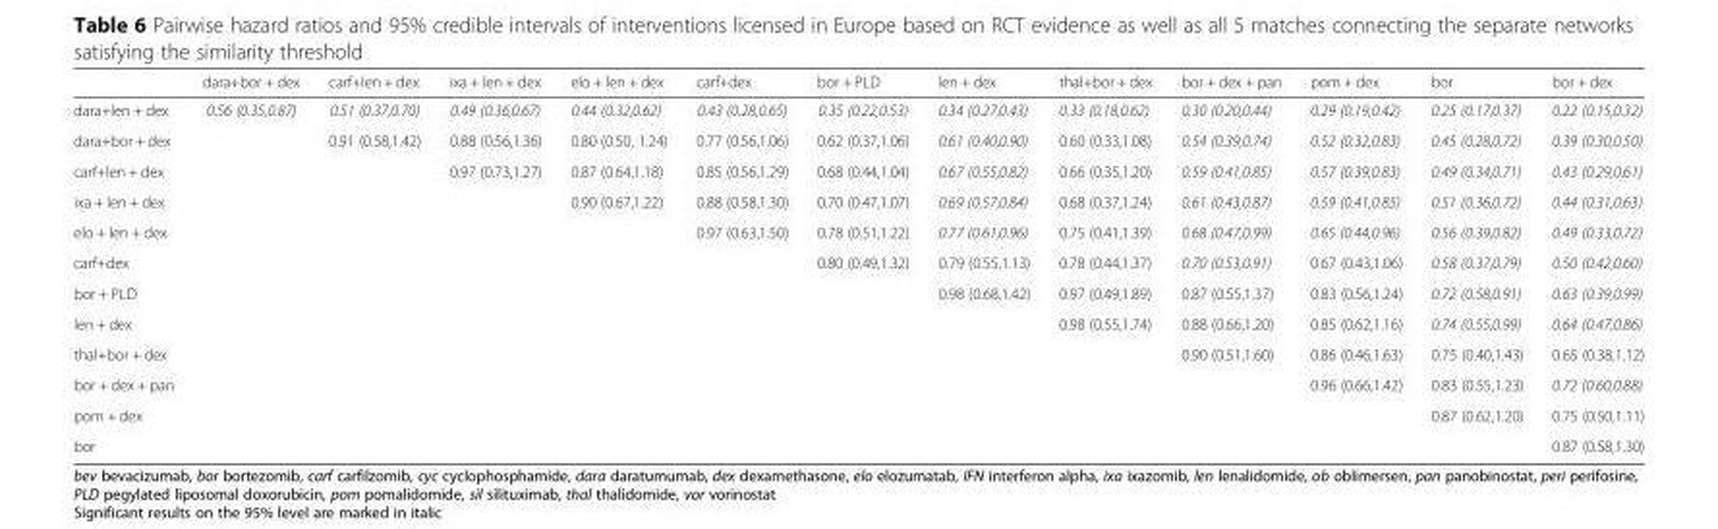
<table><thead><tr><td></td><td>dara+bor + dex</td><td>carf+len + dex</td><td>ixa + len + dex</td><td>elo + len + dex</td><td>carf+dex</td><td>bor + PLD</td><td>len + dex</td><td>thal+bor + dex</td><td>bor + dex + pan</td><td>pom + dex</td><td>bor</td><td>bor + dex</td></tr></thead><tbody><tr><td>dara+len + dex</td><td>0.56 (0.35,0.87)</td><td>0.51 (0.37,0.70)</td><td>0.49 (0.36,0.67)</td><td>0.44 (0.32,0.62)</td><td>0.43 (0.28,0.65)</td><td>0.35 (0.22,0.53)</td><td>0.34 (0.27,0.43)</td><td>0.33 (0.18,0.62)</td><td>0.30 (0.20,0.44)</td><td>0.29 (0.19,0.42)</td><td>0.25 (0.17,0.37)</td><td>0.22 (0.15,0.32)</td></tr><tr><td>dara+bor + dex</td><td></td><td>0.91 (0.58,1.42)</td><td>0.88 (0.56,1.36)</td><td>0.80 (0.50, 1.24)</td><td>0.77 (0.56,1.06)</td><td>0.62 (0.37,1.06)</td><td>0.61 (0.40,0.90)</td><td>0.60 (0.33,1.08)</td><td>0.54 (0.39,0.74)</td><td>0.52 (0.32,0.83)</td><td>0.45 (0.28,0.72)</td><td>0.39 (0.30,0.50)</td></tr><tr><td>carf+len + dex</td><td></td><td></td><td>0.97 (0.73,1.27)</td><td>0.87 (0.64,1.18)</td><td>0.85 (0.56,1.29)</td><td>0.68 (0.44,1.04)</td><td>0.67 (0.55,0.82)</td><td>0.66 (0.35,1.20)</td><td>0.59 (0.41,0.85)</td><td>0.57 (0.39,0.83)</td><td>0.49 (0.34,0.71)</td><td>0.43 (0.29,0.61)</td></tr><tr><td>ixa + len + dex</td><td></td><td></td><td></td><td>0.90 (0.67,1.22)</td><td>0.88 (0.58,1.30)</td><td>0.70 (0.47,1.07)</td><td>0.69 (0.57,0.84)</td><td>0.68 (0.37,1.24)</td><td>0.61 (0.43,0.87)</td><td>0.59 (0.41,0.85)</td><td>0.51 (0.36,0.72)</td><td>0.44 (0.31,0.63)</td></tr><tr><td>elo + len + dex</td><td></td><td></td><td></td><td></td><td>0.97 (0.63,1.50)</td><td>0.78 (0.51,1.22)</td><td>0.77 (0.61,0.96)</td><td>0.75 (0.41,1.39)</td><td>0.68 (0.47,0.99)</td><td>0.65 (0.44,0.96)</td><td>0.56 (0.39,0.82)</td><td>0.49 (0.33,0.72)</td></tr><tr><td>carf+dex</td><td></td><td></td><td></td><td></td><td></td><td>0.80 (0.49,1.32)</td><td>0.79 (0.55,1.13)</td><td>0.78 (0.44,1.37)</td><td>0.70 (0.53,0.91)</td><td>0.67 (0.43,1.06)</td><td>0.58 (0.37,0.79)</td><td>0.50 (0.42,0.60)</td></tr><tr><td>bor + PLD</td><td></td><td></td><td></td><td></td><td></td><td></td><td>0.98 (0.68,1.42)</td><td>0.97 (0.49,1.89)</td><td>0.87 (0.55,1.37)</td><td>0.83 (0.56,1.24)</td><td>0.72 (0.58,0.91)</td><td>0.63 (0.39,0.99)</td></tr><tr><td>len + dex</td><td></td><td></td><td></td><td></td><td></td><td></td><td></td><td>0.98 (0.55,1.74)</td><td>0.88 (0.66,1.20)</td><td>0.85 (0.62,1.16)</td><td>0.74 (0.55,0.99)</td><td>0.64 (0.47,0.86)</td></tr><tr><td>thal+bor + dex</td><td></td><td></td><td></td><td></td><td></td><td></td><td></td><td></td><td>0.90 (0.51,1.60)</td><td>0.86 (0.46,1.63)</td><td>0.75 (0.40,1.43)</td><td>0.65 (0.38,1.12)</td></tr><tr><td>bor + dex + pan</td><td></td><td></td><td></td><td></td><td></td><td></td><td></td><td></td><td></td><td>0.96 (0.66,1.42)</td><td>0.83 (0.55,1.23)</td><td>0.72 (0.60,0.88)</td></tr><tr><td>pom + dex</td><td></td><td></td><td></td><td></td><td></td><td></td><td></td><td></td><td></td><td></td><td>0.87 (0.62,1.20)</td><td>0.75 (0.50,1.11)</td></tr><tr><td>bor</td><td></td><td></td><td></td><td></td><td></td><td></td><td></td><td></td><td></td><td></td><td></td><td>0.87 (0.58,1.30)</td></tr></tbody></table>